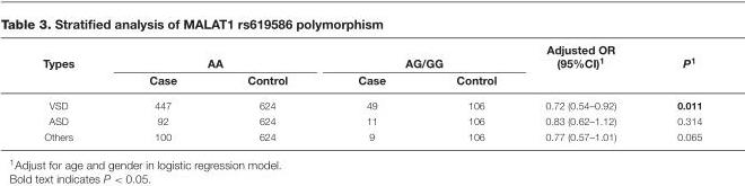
<table><thead><tr><td rowspan="2">Types</td><td colspan="2">AA</td><td colspan="2">AG/GG</td><td rowspan="2">Adjusted OR (95%CI)<sup>1</sup></td><td rowspan="2">P<sup>1</sup></td></tr><tr><td>Case</td><td>Control</td><td>Case</td><td>Control</td></tr></thead><tbody><tr><td>VSD</td><td>447</td><td>624</td><td>49</td><td>106</td><td>0.72 (0.54–0.92)</td><td>0.011</td></tr><tr><td>ASD</td><td>92</td><td>624</td><td>11</td><td>106</td><td>0.83 (0.62–1.12)</td><td>0.314</td></tr><tr><td>Others</td><td>100</td><td>624</td><td>9</td><td>106</td><td>0.77 (0.57–1.01)</td><td>0.065</td></tr></tbody></table>